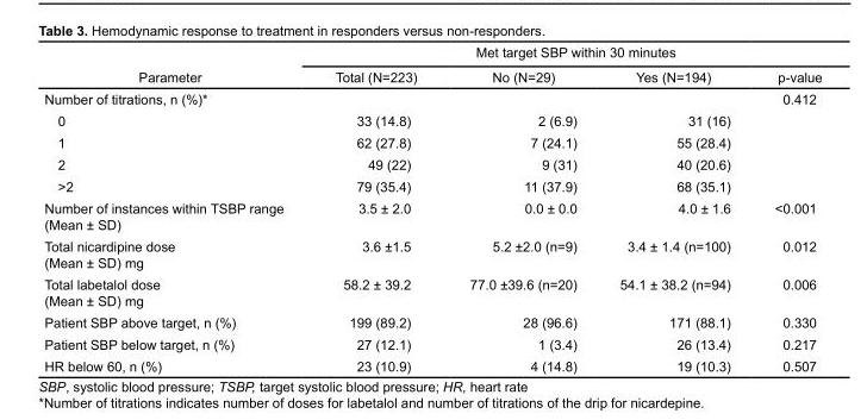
<table><thead><tr><td rowspan="2">Parameter</td><td colspan="4">Met target SBP within 30 minutes</td></tr><tr><td>Total (N=223)</td><td>No (N=29)</td><td>Yes (N=194)</td><td>p-value</td></tr></thead><tbody><tr><td>Number of titrations, n (%)*</td><td></td><td></td><td></td><td>0.412</td></tr><tr><td>0</td><td>33 (14.8)</td><td>2 (6.9)</td><td>31 (16)</td><td></td></tr><tr><td>1</td><td>62 (27.8)</td><td>7 (24.1)</td><td>55 (28.4)</td><td></td></tr><tr><td>2</td><td>49 (22)</td><td>9 (31)</td><td>40 (20.6)</td><td></td></tr><tr><td>&gt;2</td><td>79 (35.4)</td><td>11 (37.9)</td><td>68 (35.1)</td><td></td></tr><tr><td>Number of instances within TSBP range (Mean ± SD)</td><td>3.5 ± 2.0</td><td>0.0 ± 0.0</td><td>4.0 ± 1.6</td><td>&lt;0.001</td></tr><tr><td>Total nicardipine dose (Mean ± SD) mg</td><td>3.6 ±1.5</td><td>5.2 ±2.0 (n=9)</td><td>3.4 ± 1.4 (n=100)</td><td>0.012</td></tr><tr><td>Total labetalol dose (Mean ± SD) mg</td><td>58.2 ± 39.2</td><td>77.0 ±39.6 (n=20)</td><td>54.1 ± 38.2 (n=94)</td><td>0.006</td></tr><tr><td>Patient SBP above target, n (%)</td><td>199 (89.2)</td><td>28 (96.6)</td><td>171 (88.1)</td><td>0.330</td></tr><tr><td>Patient SBP below target, n (%)</td><td>27 (12.1)</td><td>1 (3.4)</td><td>26 (13.4)</td><td>0.217</td></tr><tr><td>HR below 60, n (%)</td><td>23 (10.9)</td><td>4 (14.8)</td><td>19 (10.3)</td><td>0.507</td></tr></tbody></table>